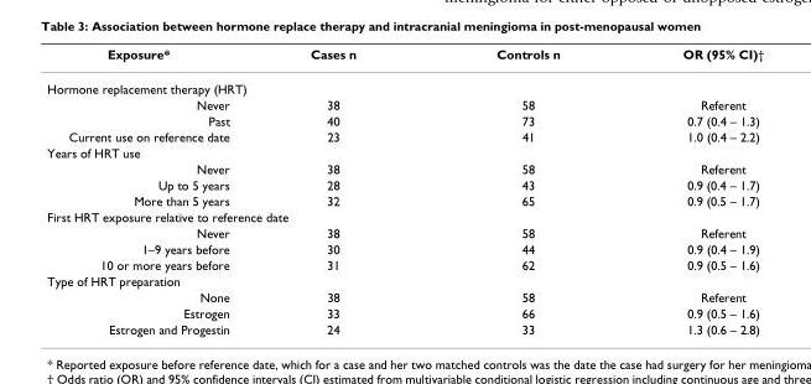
<table><thead><tr><td>Exposure*</td><td>Cases n</td><td>Controls n</td><td>OR (95% CI)†</td></tr></thead><tbody><tr><td colspan="4">Hormone replacement therapy (HRT)</td></tr><tr><td>Never</td><td>38</td><td>58</td><td>Referent</td></tr><tr><td>Past</td><td>40</td><td>73</td><td>0.7 (0.4 – 1.3)</td></tr><tr><td>Current use on reference date</td><td>23</td><td>41</td><td>1.0 (0.4 – 2.2)</td></tr><tr><td colspan="4">Years of HRT use</td></tr><tr><td>Never</td><td>38</td><td>58</td><td>Referent</td></tr><tr><td>Up to 5 years</td><td>28</td><td>43</td><td>0.9 (0.4 – 1.7)</td></tr><tr><td>More than 5 years</td><td>32</td><td>65</td><td>0.9 (0.5 – 1.7)</td></tr><tr><td colspan="4">First HRT exposure relative to reference date</td></tr><tr><td>Never</td><td>38</td><td>58</td><td>Referent</td></tr><tr><td>1–9 years before</td><td>30</td><td>44</td><td>0.9 (0.4 – 1.9)</td></tr><tr><td>10 or more years before</td><td>31</td><td>62</td><td>0.9 (0.5 – 1.6)</td></tr><tr><td colspan="4">Type of HRT preparation</td></tr><tr><td>None</td><td>38</td><td>58</td><td>Referent</td></tr><tr><td>Estrogen</td><td>33</td><td>66</td><td>0.9 (0.5 – 1.6)</td></tr><tr><td>Estrogen and Progestin</td><td>24</td><td>33</td><td>1.3 (0.6 – 2.8)</td></tr></tbody></table>